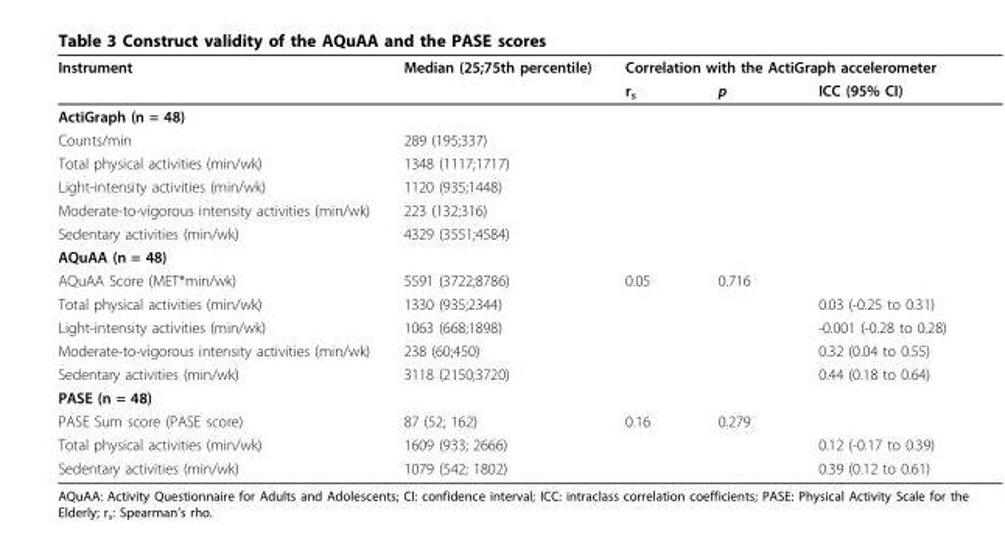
<table><thead><tr><td rowspan="2">Instrument</td><td rowspan="2">Median (25;75th percentile)</td><td colspan="3">Correlation with the ActiGraph accelerometer</td></tr><tr><td>r<sub>s</sub></td><td>p</td><td>ICC (95% CI)</td></tr></thead><tbody><tr><td colspan="5">ActiGraph (n = 48)</td></tr><tr><td>Counts/min</td><td>289 (195;337)</td><td></td><td></td><td></td></tr><tr><td>Total physical activities (min/wk)</td><td>1348 (1117;1717)</td><td></td><td></td><td></td></tr><tr><td>Light-intensity activities (min/wk)</td><td>1120 (935;1448)</td><td></td><td></td><td></td></tr><tr><td>Moderate-to-vigorous intensity activities (min/wk)</td><td>223 (132;316)</td><td></td><td></td><td></td></tr><tr><td>Sedentary activities (min/wk)</td><td>4329 (3551;4584)</td><td></td><td></td><td></td></tr><tr><td colspan="5">AQuAA (n = 48)</td></tr><tr><td>AQuAA Score (MET*min/wk)</td><td>5591 (3722;8786)</td><td>0.05</td><td>0.716</td><td></td></tr><tr><td>Total physical activities (min/wk)</td><td>1330 (935;2344)</td><td></td><td></td><td>0.03 (-0.25 to 0.31)</td></tr><tr><td>Light-intensity activities (min/wk)</td><td>1063 (668;1898)</td><td></td><td></td><td>-0.001 (-0.28 to 0.28)</td></tr><tr><td>Moderate-to-vigorous intensity activities (min/wk)</td><td>238 (60;450)</td><td></td><td></td><td>0.32 (0.04 to 0.55)</td></tr><tr><td>Sedentary activities (min/wk)</td><td>3118 (2150;3720)</td><td></td><td></td><td>0.44 (0.18 to 0.64)</td></tr><tr><td colspan="5">PASE (n = 48)</td></tr><tr><td>PASE Sum score (PASE score)</td><td>87 (52; 162)</td><td>0.16</td><td>0.279</td><td></td></tr><tr><td>Total physical activities (min/wk)</td><td>1609 (933; 2666)</td><td></td><td></td><td>0.12 (-0.17 to 0.39)</td></tr><tr><td>Sedentary activities (min/wk)</td><td>1079 (542; 1802)</td><td></td><td></td><td>0.39 (0.12 to 0.61)</td></tr></tbody></table>